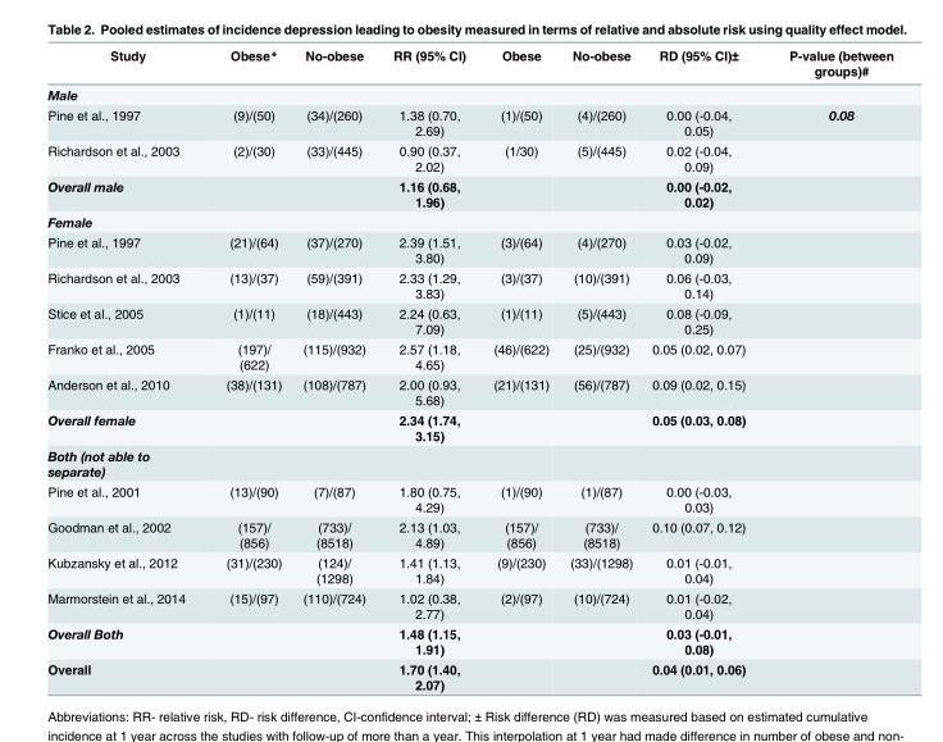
<table><thead><tr><td>Study</td><td>Obese*</td><td>No-obese</td><td>RR (95% CI)</td><td>Obese</td><td>No-obese</td><td>RD (95% CI)±</td><td>P-value (between groups)#</td></tr></thead><tbody><tr><td colspan="8">Male</td></tr><tr><td>Pine et al., 1997</td><td>(9)/(50)</td><td>(34)/(260)</td><td>1.38 (0.70, 2.69)</td><td>(1)/(50)</td><td>(4)/(260)</td><td>0.00 (-0.04, 0.05)</td><td>0.08</td></tr><tr><td>Richardson et al., 2003</td><td>(2)/(30)</td><td>(33)/(445)</td><td>0.90 (0.37, 2.02)</td><td>(1/30)</td><td>(5)/(445)</td><td>0.02 (-0.04, 0.09)</td><td></td></tr><tr><td>Overall male</td><td></td><td></td><td>1.16 (0.68, 1.96)</td><td></td><td></td><td>0.00 (-0.02, 0.02)</td><td></td></tr><tr><td colspan="8">Female</td></tr><tr><td>Pine et al., 1997</td><td>(21)/(64)</td><td>(37)/(270)</td><td>2.39 (1.51, 3.80)</td><td>(3)/(64)</td><td>(4)/(270)</td><td>0.03 (-0.02, 0.09)</td><td></td></tr><tr><td>Richardson et al., 2003</td><td>(13)/(37)</td><td>(59)/(391)</td><td>2.33 (1.29, 3.83)</td><td>(3)/(37)</td><td>(10)/(391)</td><td>0.06 (-0.03, 0.14)</td><td></td></tr><tr><td>Stice et al., 2005</td><td>(1)/(11)</td><td>(18)/(443)</td><td>2.24 (0.63, 7.09)</td><td>(1)/(11)</td><td>(5)/(443)</td><td>0.08 (-0.09, 0.25)</td><td></td></tr><tr><td>Franko et al., 2005</td><td>(197)/ (622)</td><td>(115)/(932)</td><td>2.57 (1.18, 4.65)</td><td>(46)/(622)</td><td>(25)/(932)</td><td>0.05 (0.02, 0.07)</td><td></td></tr><tr><td>Anderson et al., 2010</td><td>(38)/(131)</td><td>(108)/(787)</td><td>2.00 (0.93, 5.68)</td><td>(21)/(131)</td><td>(56)/(787)</td><td>0.09 (0.02, 0.15)</td><td></td></tr><tr><td>Overall female</td><td></td><td></td><td>2.34 (1.74, 3.15)</td><td></td><td></td><td>0.05 (0.03, 0.08)</td><td></td></tr><tr><td colspan="8">Both (not able to separate)</td></tr><tr><td>Pine et al., 2001</td><td>(13)/(90)</td><td>(7)/(87)</td><td>1.80 (0.75, 4.29)</td><td>(1)/(90)</td><td>(1)/(87)</td><td>0.00 (-0.03, 0.03)</td><td></td></tr><tr><td>Goodman et al., 2002</td><td>(157)/ (856)</td><td>(733)/ (8518)</td><td>2.13 (1.03, 4.89)</td><td>(157)/ (856)</td><td>(733)/ (8518)</td><td>0.10 (0.07, 0.12)</td><td></td></tr><tr><td>Kubzansky et al., 2012</td><td>(31)/(230)</td><td>(124)/ (1298)</td><td>1.41 (1.13, 1.84)</td><td>(9)/(230)</td><td>(33)/(1298)</td><td>0.01 (-0.01, 0.04)</td><td></td></tr><tr><td>Marmorstein et al., 2014</td><td>(15)/(97)</td><td>(110)/(724)</td><td>1.02 (0.38, 2.77)</td><td>(2)/(97)</td><td>(10)/(724)</td><td>0.01 (-0.02, 0.04)</td><td></td></tr><tr><td>Overall Both</td><td></td><td></td><td>1.48 (1.15, 1.91)</td><td></td><td></td><td>0.03 (-0.01, 0.08)</td><td></td></tr><tr><td>Overall</td><td></td><td></td><td>1.70 (1.40, 2.07)</td><td></td><td></td><td>0.04 (0.01, 0.06)</td><td></td></tr></tbody></table>